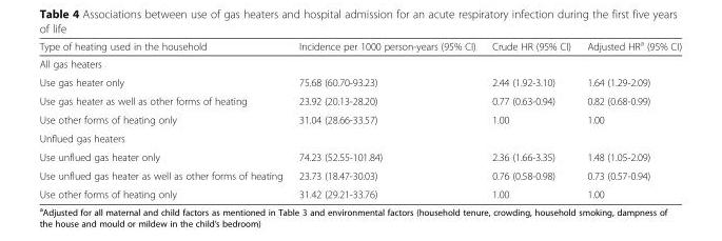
<table><thead><tr><td>Type of heating used in the household</td><td>Incidence per 1000 person-years (95% CI)</td><td>Crude HR (95% CI)</td><td>Adjusted HR<sup>a</sup> (95% CI)</td></tr></thead><tbody><tr><td colspan="4">All gas heaters</td></tr><tr><td>Use gas heater only</td><td>75.68 (60.70-93.23)</td><td>2.44 (1.92-3.10)</td><td>1.64 (1.29-2.09)</td></tr><tr><td>Use gas heater as well as other forms of heating</td><td>23.92 (20.13-28.20)</td><td>0.77 (0.63-0.94)</td><td>0.82 (0.68-0.99)</td></tr><tr><td>Use other forms of heating only</td><td>31.04 (28.66-33.57)</td><td>1.00</td><td>1.00</td></tr><tr><td colspan="4">Unflued gas heaters</td></tr><tr><td>Use unflued gas heater only</td><td>74.23 (52.55-101.84)</td><td>2.36 (1.66-3.35)</td><td>1.48 (1.05-2.09)</td></tr><tr><td>Use unflued gas heater as well as other forms of heating</td><td>23.73 (18.47-30.03)</td><td>0.76 (0.58-0.98)</td><td>0.73 (0.57-0.94)</td></tr><tr><td>Use other forms of heating only</td><td>31.42 (29.21-33.76)</td><td>1.00</td><td>1.00</td></tr></tbody></table>